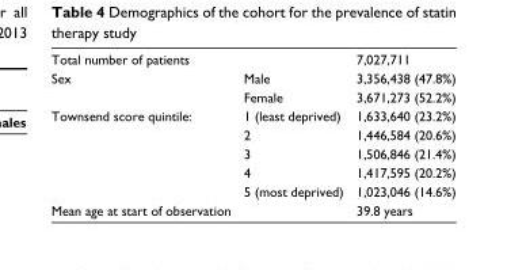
<table><tbody><tr><td>Total number of patients</td><td></td><td>7,027,711</td></tr><tr><td rowspan="2">Sex</td><td>Male</td><td>3,356,438 (47.8%)</td></tr><tr><td>Female</td><td>3,671,273 (52.2%)</td></tr><tr><td rowspan="5">Townsend score quintile:</td><td>1 (least deprived)</td><td>1,633,640 (23.2%)</td></tr><tr><td>2</td><td>1,446,584 (20.6%)</td></tr><tr><td>3</td><td>1,506,846 (21.4%)</td></tr><tr><td>4</td><td>1,417,595 (20.2%)</td></tr><tr><td>5 (most deprived)</td><td>1,023,046 (14.6%)</td></tr><tr><td>Mean age at start of observation</td><td></td><td>39.8 years</td></tr></tbody></table>